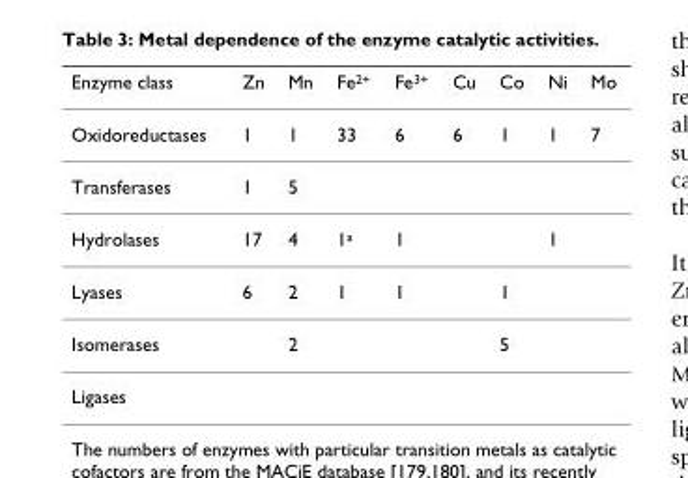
<table><thead><tr><td>Enzyme class</td><td>Zn</td><td>Mn</td><td>Fe<sup>2+</sup></td><td>Fe<sup>3+</sup></td><td>Cu</td><td>Co</td><td>Ni</td><td>Mo</td></tr></thead><tbody><tr><td>Oxidoreductases</td><td>1</td><td>1</td><td>33</td><td>6</td><td>6</td><td>1</td><td>1</td><td>7</td></tr><tr><td>Transferases</td><td>1</td><td>5</td><td></td><td></td><td></td><td></td><td></td><td></td></tr><tr><td>Hydrolases</td><td>17</td><td>4</td><td>1<sup>a</sup></td><td>1</td><td></td><td></td><td>1</td><td></td></tr><tr><td>Lyases</td><td>6</td><td>2</td><td>1</td><td>1</td><td></td><td>1</td><td></td><td></td></tr><tr><td>Isomerases</td><td></td><td>2</td><td></td><td></td><td></td><td>5</td><td></td><td></td></tr><tr><td>Ligases</td><td></td><td></td><td></td><td></td><td></td><td></td><td></td><td></td></tr></tbody></table>